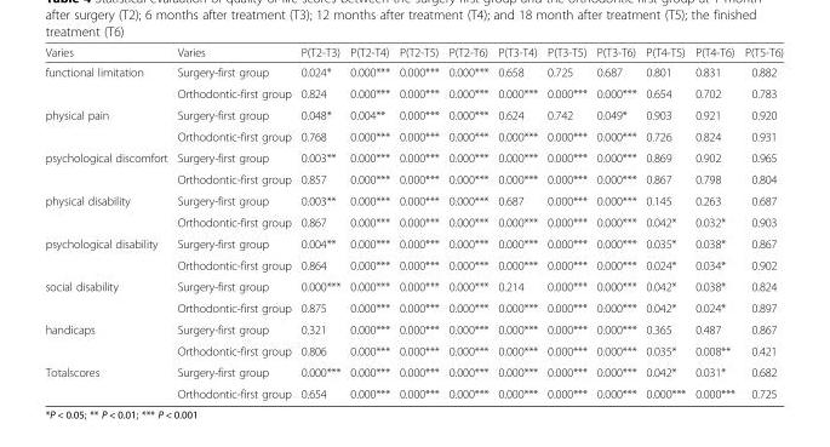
<table><thead><tr><td>Varies</td><td>Varies</td><td>P(T2-T3)</td><td>P(T2-T4)</td><td>P(T2-T5)</td><td>P(T2-T6)</td><td>P(T3-T4)</td><td>P(T3-T5)</td><td>P(T3-T6)</td><td>P(T4-T5)</td><td>P(T4-T6)</td><td>P(T5-T6)</td></tr></thead><tbody><tr><td rowspan="2">functional limitation</td><td>Surgery-first group</td><td>0.024*</td><td>0.000***</td><td>0.000***</td><td>0.000***</td><td>0.658</td><td>0.725</td><td>0.687</td><td>0.801</td><td>0.831</td><td>0.882</td></tr><tr><td>Orthodontic-first group</td><td>0.824</td><td>0.000***</td><td>0.000***</td><td>0.000***</td><td>0.000***</td><td>0.000***</td><td>0.000***</td><td>0.654</td><td>0.702</td><td>0.783</td></tr><tr><td rowspan="2">physical pain</td><td>Surgery-first group</td><td>0.048*</td><td>0.004**</td><td>0.000***</td><td>0.000***</td><td>0.624</td><td>0.742</td><td>0.049*</td><td>0.903</td><td>0.921</td><td>0.920</td></tr><tr><td>Orthodontic-first group</td><td>0.768</td><td>0.000***</td><td>0.000***</td><td>0.000***</td><td>0.000***</td><td>0.000***</td><td>0.000***</td><td>0.726</td><td>0.824</td><td>0.931</td></tr><tr><td rowspan="2">psychological discomfort</td><td>Surgery-first group</td><td>0.003**</td><td>0.000***</td><td>0.000***</td><td>0.000***</td><td>0.000***</td><td>0.000***</td><td>0.000***</td><td>0.869</td><td>0.902</td><td>0.965</td></tr><tr><td>Orthodontic-first group</td><td>0.857</td><td>0.000***</td><td>0.000***</td><td>0.000***</td><td>0.000***</td><td>0.000***</td><td>0.000***</td><td>0.867</td><td>0.798</td><td>0.804</td></tr><tr><td rowspan="2">physical disability</td><td>Surgery-first group</td><td>0.003**</td><td>0.000***</td><td>0.000***</td><td>0.000***</td><td>0.687</td><td>0.000***</td><td>0.000***</td><td>0.145</td><td>0.263</td><td>0.687</td></tr><tr><td>Orthodontic-first group</td><td>0.867</td><td>0.000***</td><td>0.000***</td><td>0.000***</td><td>0.000***</td><td>0.000***</td><td>0.000***</td><td>0.042*</td><td>0.032*</td><td>0.903</td></tr><tr><td rowspan="2">psychological disability</td><td>Surgery-first group</td><td>0.004**</td><td>0.000***</td><td>0.000***</td><td>0.000***</td><td>0.000***</td><td>0.000***</td><td>0.000***</td><td>0.035*</td><td>0.038*</td><td>0.867</td></tr><tr><td>Orthodontic-first group</td><td>0.864</td><td>0.000***</td><td>0.000***</td><td>0.000***</td><td>0.000***</td><td>0.000***</td><td>0.000***</td><td>0.024*</td><td>0.034*</td><td>0.902</td></tr><tr><td rowspan="2">social disability</td><td>Surgery-first group</td><td>0.000***</td><td>0.000***</td><td>0.000***</td><td>0.000***</td><td>0.214</td><td>0.000***</td><td>0.000***</td><td>0.042*</td><td>0.038*</td><td>0.824</td></tr><tr><td>Orthodontic-first group</td><td>0.875</td><td>0.000***</td><td>0.000***</td><td>0.000***</td><td>0.000***</td><td>0.000***</td><td>0.000***</td><td>0.042*</td><td>0.024*</td><td>0.897</td></tr><tr><td rowspan="2">handicaps</td><td>Surgery-first group</td><td>0.321</td><td>0.000***</td><td>0.000***</td><td>0.000***</td><td>0.000***</td><td>0.000***</td><td>0.000***</td><td>0.365</td><td>0.487</td><td>0.867</td></tr><tr><td>Orthodontic-first group</td><td>0.806</td><td>0.000***</td><td>0.000***</td><td>0.000***</td><td>0.000***</td><td>0.000***</td><td>0.000***</td><td>0.035*</td><td>0.008**</td><td>0.421</td></tr><tr><td rowspan="2">Totalscores</td><td>Surgery-first group</td><td>0.000***</td><td>0.000***</td><td>0.000***</td><td>0.000***</td><td>0.000***</td><td>0.000***</td><td>0.000***</td><td>0.042*</td><td>0.031*</td><td>0.682</td></tr><tr><td>Orthodontic-first group</td><td>0.654</td><td>0.000***</td><td>0.000***</td><td>0.000***</td><td>0.000***</td><td>0.000***</td><td>0.000***</td><td>0.000***</td><td>0.000***</td><td>0.725</td></tr></tbody></table>